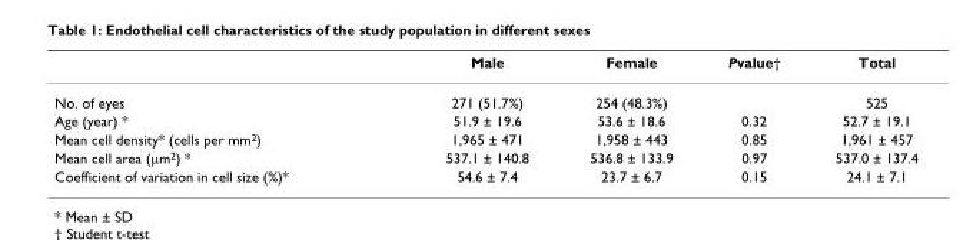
<table><thead><tr><td></td><td>Male</td><td>Female</td><td>Pvalue†</td><td>Total</td></tr></thead><tbody><tr><td>No. of eyes</td><td>271 (51.7%)</td><td>254 (48.3%)</td><td></td><td>525</td></tr><tr><td>Age (year) *</td><td>51.9 ± 19.6</td><td>53.6 ± 18.6</td><td>0.32</td><td>52.7 ± 19.1</td></tr><tr><td>Mean cell density* (cells per mm<sup>2</sup>)</td><td>1,965 ± 471</td><td>1,958 ± 443</td><td>0.85</td><td>1,961 ± 457</td></tr><tr><td>Mean cell area (µm<sup>2</sup>) *</td><td>537.1 ± 140.8</td><td>536.8 ± 133.9</td><td>0.97</td><td>537.0 ± 137.4</td></tr><tr><td>Coefficient of variation in cell size (%)*</td><td>54.6 ± 7.4</td><td>23.7 ± 6.7</td><td>0.15</td><td>24.1 ± 7.1</td></tr></tbody></table>